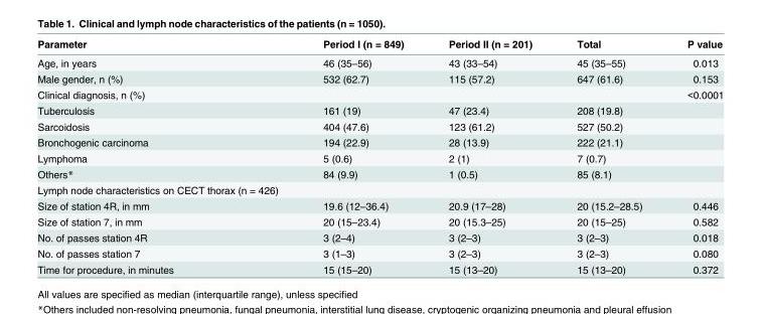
<table><thead><tr><td>Parameter</td><td>Period I (n = 849)</td><td>Period II (n = 201)</td><td>Total</td><td>P value</td></tr></thead><tbody><tr><td>Age, in years</td><td>46 (35–56)</td><td>43 (33–54)</td><td>45 (35–55)</td><td>0.013</td></tr><tr><td>Male gender, n (%)</td><td>532 (62.7)</td><td>115 (57.2)</td><td>647 (61.6)</td><td>0.153</td></tr><tr><td>Clinical diagnosis, n (%)</td><td></td><td></td><td></td><td>&lt;0.0001</td></tr><tr><td>Tuberculosis</td><td>161 (19)</td><td>47 (23.4)</td><td>208 (19.8)</td><td></td></tr><tr><td>Sarcoidosis</td><td>404 (47.6)</td><td>123 (61.2)</td><td>527 (50.2)</td><td></td></tr><tr><td>Bronchogenic carcinoma</td><td>194 (22.9)</td><td>28 (13.9)</td><td>222 (21.1)</td><td></td></tr><tr><td>Lymphoma</td><td>5 (0.6)</td><td>2 (1)</td><td>7 (0.7)</td><td></td></tr><tr><td>Others*</td><td>84 (9.9)</td><td>1 (0.5)</td><td>85 (8.1)</td><td></td></tr><tr><td colspan="5">Lymph node characteristics on CECT thorax (n = 426)</td></tr><tr><td>Size of station 4R, in mm</td><td>19.6 (12–36.4)</td><td>20.9 (17–28)</td><td>20 (15.2–28.5)</td><td>0.446</td></tr><tr><td>Size of station 7, in mm</td><td>20 (15–23.4)</td><td>20 (15.3–25)</td><td>20 (15–25)</td><td>0.582</td></tr><tr><td>No. of passes station 4R</td><td>3 (2–4)</td><td>3 (2–3)</td><td>3 (2–3)</td><td>0.018</td></tr><tr><td>No. of passes station 7</td><td>3 (1–3)</td><td>3 (2–3)</td><td>3 (2–3)</td><td>0.080</td></tr><tr><td>Time for procedure, in minutes</td><td>15 (15–20)</td><td>15 (13–20)</td><td>15 (13–20)</td><td>0.372</td></tr></tbody></table>